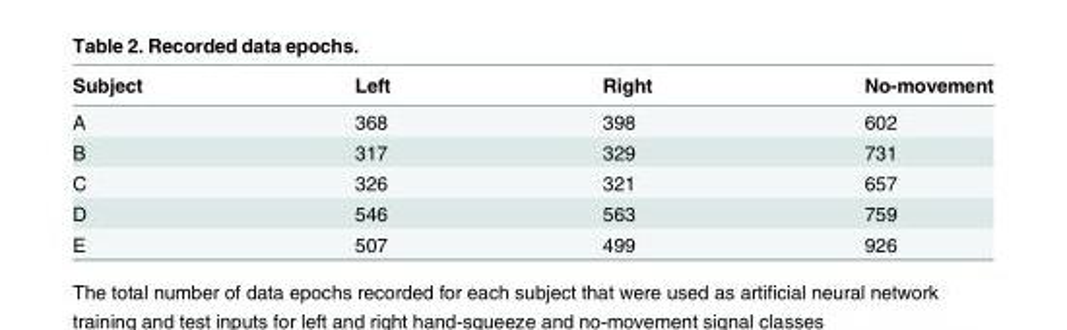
<table><thead><tr><td>Subject</td><td>Left</td><td>Right</td><td>No-movement</td></tr></thead><tbody><tr><td>A</td><td>368</td><td>398</td><td>602</td></tr><tr><td>B</td><td>317</td><td>329</td><td>731</td></tr><tr><td>C</td><td>326</td><td>321</td><td>657</td></tr><tr><td>D</td><td>546</td><td>563</td><td>759</td></tr><tr><td>E</td><td>507</td><td>499</td><td>926</td></tr></tbody></table>